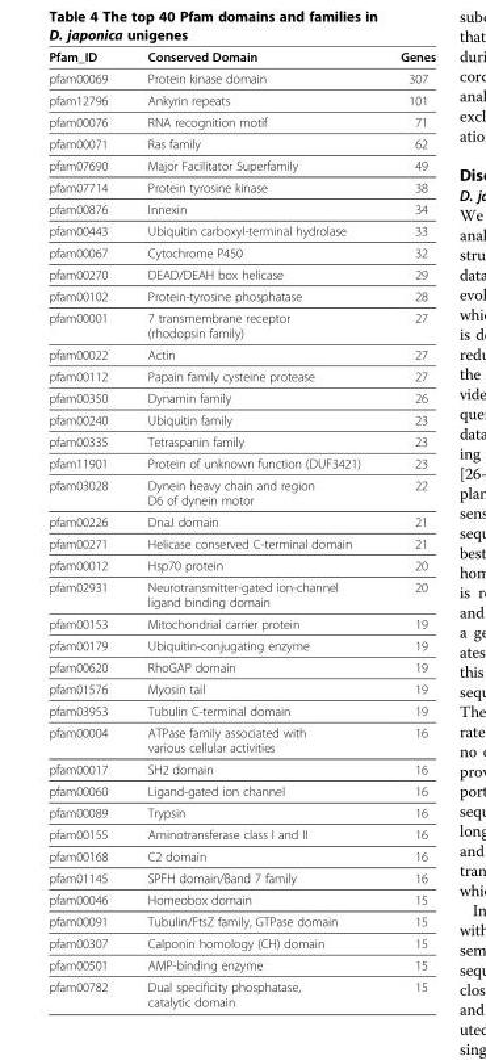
<table><thead><tr><td>Pfam_ID</td><td>Conserved Domain</td><td>Genes</td></tr></thead><tbody><tr><td>pfam00069</td><td>Protein kinase domain</td><td>307</td></tr><tr><td>pfam12796</td><td>Ankyrin repeats</td><td>101</td></tr><tr><td>pfam00076</td><td>RNA recognition motif</td><td>71</td></tr><tr><td>pfam00071</td><td>Ras family</td><td>62</td></tr><tr><td>pfam07690</td><td>Major Facilitator Superfamily</td><td>49</td></tr><tr><td>pfam07714</td><td>Protein tyrosine kinase</td><td>38</td></tr><tr><td>pfam00876</td><td>Innexin</td><td>34</td></tr><tr><td>pfam00443</td><td>Ubiquitin carboxyl-terminal hydrolase</td><td>33</td></tr><tr><td>pfam00067</td><td>Cytochrome P450</td><td>32</td></tr><tr><td>pfam00270</td><td>DEAD/DEAH box helicase</td><td>29</td></tr><tr><td>pfam00102</td><td>Protein-tyrosine phosphatase</td><td>28</td></tr><tr><td>pfam00001</td><td>7 transmembrane receptor (rhodopsin family)</td><td>27</td></tr><tr><td>pfam00022</td><td>Actin</td><td>27</td></tr><tr><td>pfam00112</td><td>Papain family cysteine protease</td><td>27</td></tr><tr><td>pfam00350</td><td>Dynamin family</td><td>26</td></tr><tr><td>pfam00240</td><td>Ubiquitin family</td><td>23</td></tr><tr><td>pfam00335</td><td>Tetraspanin family</td><td>23</td></tr><tr><td>pfam11901</td><td>Protein of unknown function (DUF3421)</td><td>23</td></tr><tr><td>pfam03028</td><td>Dynein heavy chain and region D6 of dynein motor</td><td>22</td></tr><tr><td>pfam00226</td><td>DnaJ domain</td><td>21</td></tr><tr><td>pfam00271</td><td>Helicase conserved C-terminal domain</td><td>21</td></tr><tr><td>pfam00012</td><td>Hsp70 protein</td><td>20</td></tr><tr><td>pfam02931</td><td>Neurotransmitter-gated ion-channel ligand binding domain</td><td>20</td></tr><tr><td>pfam00153</td><td>Mitochondrial carrier protein</td><td>19</td></tr><tr><td>pfam00179</td><td>Ubiquitin-conjugating enzyme</td><td>19</td></tr><tr><td>pfam00620</td><td>RhoGAP domain</td><td>19</td></tr><tr><td>pfam01576</td><td>Myosin tail</td><td>19</td></tr><tr><td>pfam03953</td><td>Tubulin C-terminal domain</td><td>19</td></tr><tr><td>pfam00004</td><td>ATPase family associated with various cellular activities</td><td>16</td></tr><tr><td>pfam00017</td><td>SH2 domain</td><td>16</td></tr><tr><td>pfam00060</td><td>Ligand-gated ion channel</td><td>16</td></tr><tr><td>pfam00089</td><td>Trypsin</td><td>16</td></tr><tr><td>pfam00155</td><td>Aminotransferase class I and II</td><td>16</td></tr><tr><td>pfam00168</td><td>C2 domain</td><td>16</td></tr><tr><td>pfam01145</td><td>SPFH domain/Band 7 family</td><td>16</td></tr><tr><td>pfam00046</td><td>Homeobox domain</td><td>15</td></tr><tr><td>pfam00091</td><td>Tubulin/FtsZ family, GTPase domain</td><td>15</td></tr><tr><td>pfam00307</td><td>Calponin homology (CH) domain</td><td>15</td></tr><tr><td>pfam00501</td><td>AMP-binding enzyme</td><td>15</td></tr><tr><td>pfam00782</td><td>Dual specificity phosphatase, catalytic domain</td><td>15</td></tr></tbody></table>